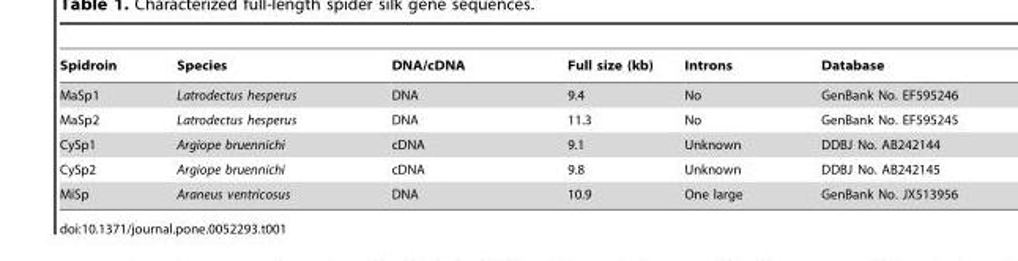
<table><thead><tr><td>Spidroin</td><td>Species</td><td>DNA/cDNA</td><td>Full size (kb)</td><td>Introns</td><td>Database</td></tr></thead><tbody><tr><td>MaSp1</td><td>Latrodectus hesperus</td><td>DNA</td><td>9.4</td><td>No</td><td>GenBank No. EF595246</td></tr><tr><td>MaSp2</td><td>Latrodectus hesperus</td><td>DNA</td><td>11.3</td><td>No</td><td>GenBank No. EF595245</td></tr><tr><td>CySp1</td><td>Argiope bruennichi</td><td>cDNA</td><td>9.1</td><td>Unknown</td><td>DDBJ No. AB242144</td></tr><tr><td>CySp2</td><td>Argiope bruennichi</td><td>cDNA</td><td>9.8</td><td>Unknown</td><td>DDBJ No. AB242145</td></tr><tr><td>MiSp</td><td>Araneus ventricosus</td><td>DNA</td><td>10.9</td><td>One large</td><td>GenBank No. JX513956</td></tr></tbody></table>